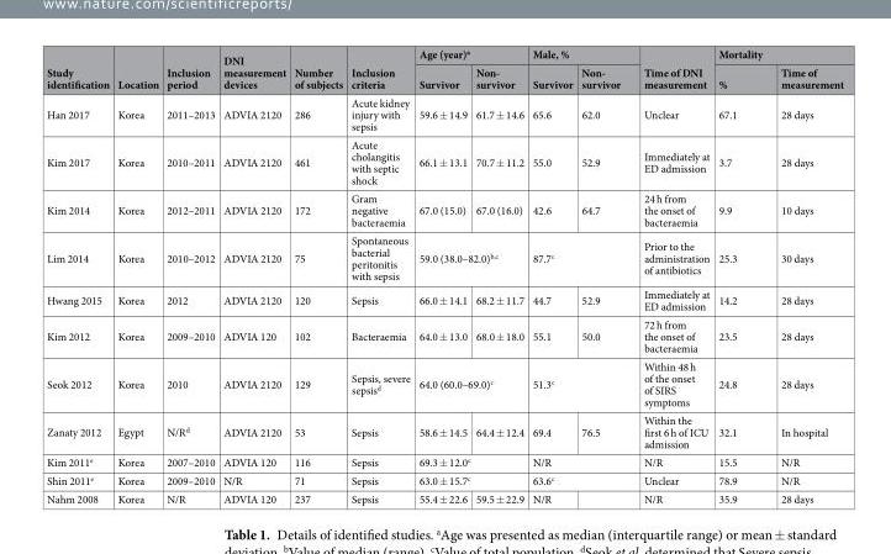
<table><thead><tr><td rowspan="2">Study identification</td><td rowspan="2">Location</td><td rowspan="2">Inclusion period</td><td rowspan="2">DNI measurement devices</td><td rowspan="2">Number of subjects</td><td rowspan="2">Inclusion criteria</td><td colspan="2">Age (year)<sup>a</sup></td><td colspan="2">Male, %</td><td rowspan="2">Time of DNI measurement</td><td colspan="2">Mortality</td></tr><tr><td>Survivor</td><td>Non- survivor</td><td>Survivor</td><td>Non- survivor</td><td>%</td><td>Time of measurement</td></tr></thead><tbody><tr><td>Han 2017</td><td>Korea</td><td>2011–2013</td><td>ADVIA 2120</td><td>286</td><td>Acute kidney injury with sepsis</td><td>59.6 ± 14.9</td><td>61.7 ± 14.6</td><td>65.6</td><td>62.0</td><td>Unclear</td><td>67.1</td><td>28 days</td></tr><tr><td>Kim 2017</td><td>Korea</td><td>2010–2011</td><td>ADVIA 2120</td><td>461</td><td>Acute cholangitis with septic shock</td><td>66.1 ± 13.1</td><td>70.7 ± 11.2</td><td>55.0</td><td>52.9</td><td>Immediately at ED admission</td><td>3.7</td><td>28 days</td></tr><tr><td>Kim 2014</td><td>Korea</td><td>2012–2011</td><td>ADVIA 2120</td><td>172</td><td>Gram negative bacteraemia</td><td>67.0 (15.0)</td><td>67.0 (16.0)</td><td>42.6</td><td>64.7</td><td>24 h from the onset of bacteraemia</td><td>9.9</td><td>10 days</td></tr><tr><td>Lim 2014</td><td>Korea</td><td>2010–2012</td><td>ADVIA 2120</td><td>75</td><td>Spontaneous bacterial peritonitis with sepsis</td><td colspan="2">59.0 (38.0–82.0)<sup>b,c</sup></td><td colspan="2">87.7<sup>c</sup></td><td>Prior to the administration of antibiotics</td><td>25.3</td><td>30 days</td></tr><tr><td>Hwang 2015</td><td>Korea</td><td>2012</td><td>ADVIA 2120</td><td>120</td><td>Sepsis</td><td>66.0 ± 14.1</td><td>68.2 ± 11.7</td><td>44.7</td><td>52.9</td><td>Immediately at ED admission</td><td>14.2</td><td>28 days</td></tr><tr><td>Kim 2012</td><td>Korea</td><td>2009–2010</td><td>ADVIA 120</td><td>102</td><td>Bacteraemia</td><td>64.0 ± 13.0</td><td>68.0 ± 18.0</td><td>55.1</td><td>50.0</td><td>72 h from the onset of bacteraemia</td><td>23.5</td><td>28 days</td></tr><tr><td>Seok 2012</td><td>Korea</td><td>2010</td><td>ADVIA 2120</td><td>129</td><td>Sepsis, severe sepsis<sup>d</sup></td><td colspan="2">64.0 (60.0–69.0)<sup>c</sup></td><td colspan="2">51.3<sup>c</sup></td><td>Within 48 h of the onset of SIRS symptoms</td><td>24.8</td><td>28 days</td></tr><tr><td>Zanaty 2012</td><td>Egypt</td><td>N/R<sup>d</sup></td><td>ADVIA 2120</td><td>53</td><td>Sepsis</td><td>58.6 ± 14.5</td><td>64.4 ± 12.4</td><td>69.4</td><td>76.5</td><td>Within the first 6 h of ICU admission</td><td>32.1</td><td>In hospital</td></tr><tr><td>Kim 2011<sup>e</sup></td><td>Korea</td><td>2007–2010</td><td>ADVIA 120</td><td>116</td><td>Sepsis</td><td colspan="2">69.3 ± 12.0<sup>c</sup></td><td colspan="2">N/R</td><td>N/R</td><td>15.5</td><td>N/R</td></tr><tr><td>Shin 2011<sup>e</sup></td><td>Korea</td><td>2009–2010</td><td>N/R</td><td>71</td><td>Sepsis</td><td colspan="2">63.0 ± 15.7<sup>c</sup></td><td colspan="2">63.6<sup>c</sup></td><td>Unclear</td><td>78.9</td><td>N/R</td></tr><tr><td>Nahm 2008</td><td>Korea</td><td>N/R</td><td>ADVIA 120</td><td>237</td><td>Sepsis</td><td>55.4 ± 22.6</td><td>59.5 ± 22.9</td><td>N/R</td><td></td><td>N/R</td><td>35.9</td><td>28 days</td></tr></tbody></table>